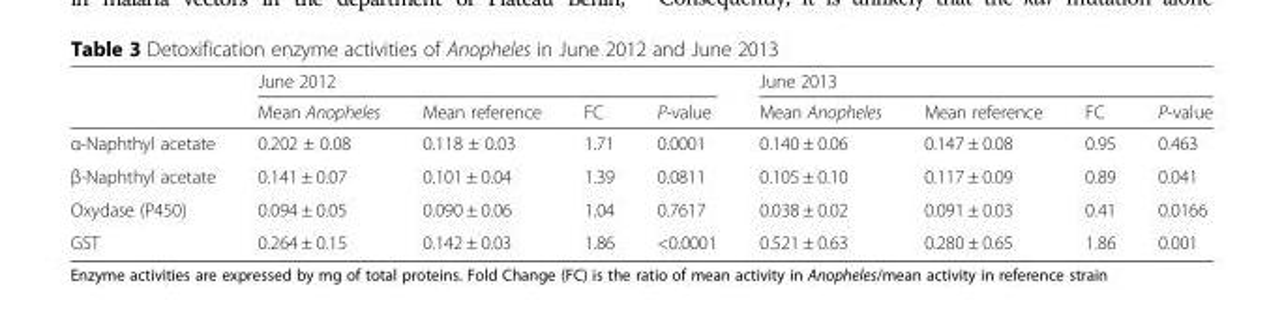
<table><thead><tr><td rowspan="2"></td><td colspan="4">June 2012</td><td colspan="4">June 2013</td></tr><tr><td>Mean Anopheles</td><td>Mean reference</td><td>FC</td><td>P-value</td><td>Mean Anopheles</td><td>Mean reference</td><td>FC</td><td>P-value</td></tr></thead><tbody><tr><td>α-Naphthyl acetate</td><td>0.202 ± 0.08</td><td>0.118 ± 0.03</td><td>1.71</td><td>0.0001</td><td>0.140 ± 0.06</td><td>0.147 ± 0.08</td><td>0.95</td><td>0.463</td></tr><tr><td>β-Naphthyl acetate</td><td>0.141 ± 0.07</td><td>0.101 ± 0.04</td><td>1.39</td><td>0.0811</td><td>0.105 ± 0.10</td><td>0.117 ± 0.09</td><td>0.89</td><td>0.041</td></tr><tr><td>Oxydase (P450)</td><td>0.094 ± 0.05</td><td>0.090 ± 0.06</td><td>1.04</td><td>0.7617</td><td>0.038 ± 0.02</td><td>0.091 ± 0.03</td><td>0.41</td><td>0.0166</td></tr><tr><td>GST</td><td>0.264 ± 0.15</td><td>0.142 ± 0.03</td><td>1.86</td><td>&lt;0.0001</td><td>0.521 ± 0.63</td><td>0.280 ± 0.65</td><td>1.86</td><td>0.001</td></tr></tbody></table>